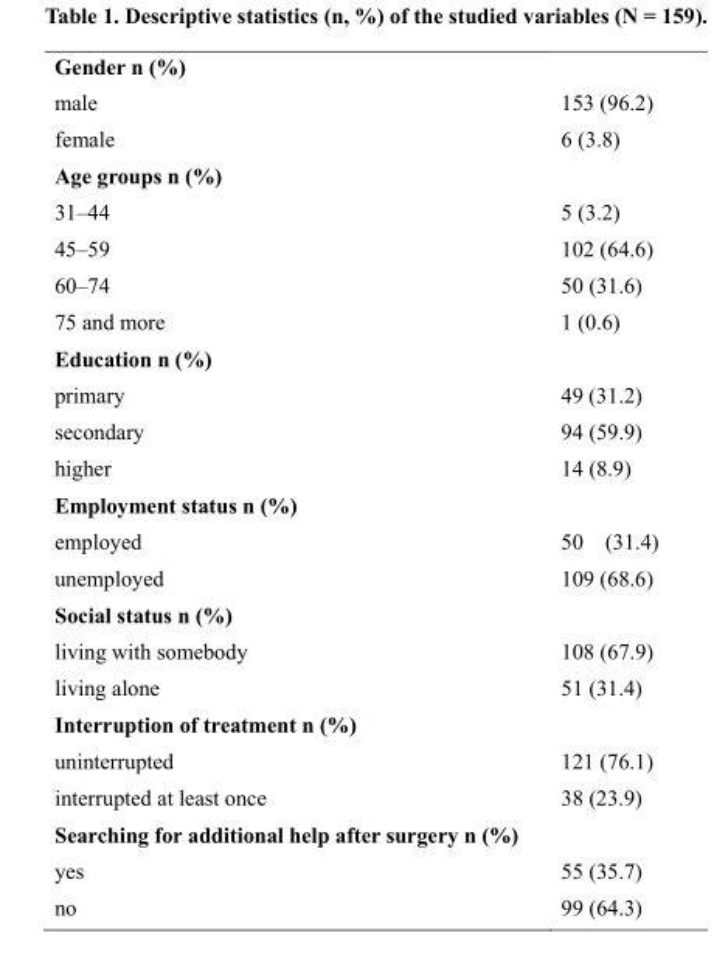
<table><tbody><tr><td colspan="2">Gender n (%)</td></tr><tr><td>male</td><td>153 (96.2)</td></tr><tr><td>female</td><td>6 (3.8)</td></tr><tr><td colspan="2">Age groups n (%)</td></tr><tr><td>31–44</td><td>5 (3.2)</td></tr><tr><td>45–59</td><td>102 (64.6)</td></tr><tr><td>60–74</td><td>50 (31.6)</td></tr><tr><td>75 and more</td><td>1 (0.6)</td></tr><tr><td colspan="2">Education n (%)</td></tr><tr><td>primary</td><td>49 (31.2)</td></tr><tr><td>secondary</td><td>94 (59.9)</td></tr><tr><td>higher</td><td>14 (8.9)</td></tr><tr><td colspan="2">Employment status n (%)</td></tr><tr><td>employed</td><td>50 (31.4)</td></tr><tr><td>unemployed</td><td>109 (68.6)</td></tr><tr><td colspan="2">Social status n (%)</td></tr><tr><td>living with somebody</td><td>108 (67.9)</td></tr><tr><td>living alone</td><td>51 (31.4)</td></tr><tr><td colspan="2">Interruption of treatment n (%)</td></tr><tr><td>uninterrupted</td><td>121 (76.1)</td></tr><tr><td>interrupted at least once</td><td>38 (23.9)</td></tr><tr><td colspan="2">Searching for additional help after surgery n (%)</td></tr><tr><td>yes</td><td>55 (35.7)</td></tr><tr><td>no</td><td>99 (64.3)</td></tr></tbody></table>